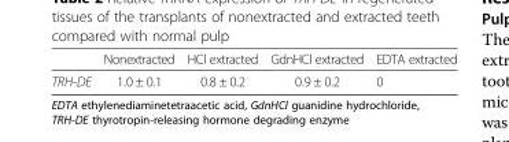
<table><thead><tr><td></td><td>Nonextracted</td><td>HCl extracted</td><td>GdnHCl extracted</td><td>EDTA extracted</td></tr></thead><tbody><tr><td>TRH-DE</td><td>1.0 ± 0.1</td><td>0.8 ± 0.2</td><td>0.9 ± 0.2</td><td>0</td></tr></tbody></table>